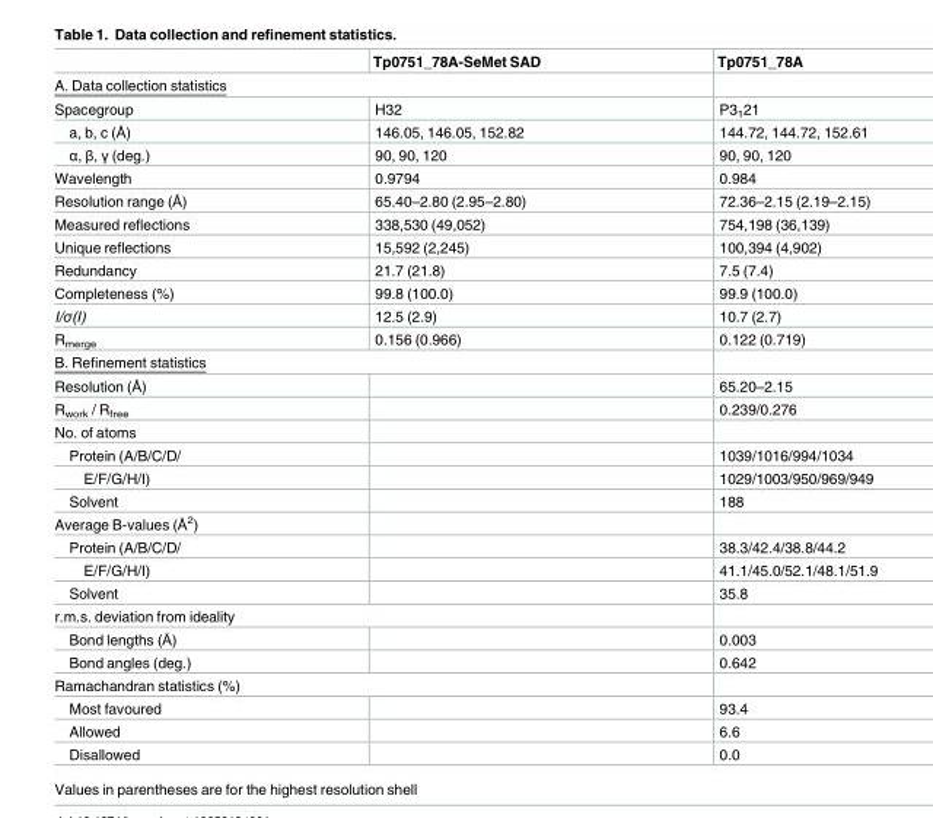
<table><thead><tr><td></td><td>Tp0751_78A-SeMet SAD</td><td>Tp0751_78A</td></tr></thead><tbody><tr><td colspan="3">A. Data collection statistics</td></tr><tr><td>Spacegroup</td><td>H32</td><td>P3<sub>1</sub>21</td></tr><tr><td>a, b, c (Å)</td><td>146.05, 146.05, 152.82</td><td>144.72, 144.72, 152.61</td></tr><tr><td>α, β, γ (deg.)</td><td>90, 90, 120</td><td>90, 90, 120</td></tr><tr><td>Wavelength</td><td>0.9794</td><td>0.984</td></tr><tr><td>Resolution range (Å)</td><td>65.40–2.80 (2.95–2.80)</td><td>72.36–2.15 (2.19–2.15)</td></tr><tr><td>Measured reflections</td><td>338,530 (49,052)</td><td>754,198 (36,139)</td></tr><tr><td>Unique reflections</td><td>15,592 (2,245)</td><td>100,394 (4,902)</td></tr><tr><td>Redundancy</td><td>21.7 (21.8)</td><td>7.5 (7.4)</td></tr><tr><td>Completeness (%)</td><td>99.8 (100.0)</td><td>99.9 (100.0)</td></tr><tr><td>I/σ(I)</td><td>12.5 (2.9)</td><td>10.7 (2.7)</td></tr><tr><td>R<sub>merge</sub></td><td>0.156 (0.966)</td><td>0.122 (0.719)</td></tr><tr><td colspan="3">B. Refinement statistics</td></tr><tr><td>Resolution (Å)</td><td></td><td>65.20–2.15</td></tr><tr><td>R<sub>work</sub> / R<sub>free</sub></td><td></td><td>0.239/0.276</td></tr><tr><td colspan="3">No. of atoms</td></tr><tr><td>Protein (A/B/C/D/</td><td></td><td>1039/1016/994/1034</td></tr><tr><td>E/F/G/H/I)</td><td></td><td>1029/1003/950/969/949</td></tr><tr><td>Solvent</td><td></td><td>188</td></tr><tr><td colspan="3">Average B-values (Å<sup>2</sup>)</td></tr><tr><td>Protein (A/B/C/D/</td><td></td><td>38.3/42.4/38.8/44.2</td></tr><tr><td>E/F/G/H/I)</td><td></td><td>41.1/45.0/52.1/48.1/51.9</td></tr><tr><td>Solvent</td><td></td><td>35.8</td></tr><tr><td colspan="3">r.m.s. deviation from ideality</td></tr><tr><td>Bond lengths (Å)</td><td></td><td>0.003</td></tr><tr><td>Bond angles (deg.)</td><td></td><td>0.642</td></tr><tr><td colspan="3">Ramachandran statistics (%)</td></tr><tr><td>Most favoured</td><td></td><td>93.4</td></tr><tr><td>Allowed</td><td></td><td>6.6</td></tr><tr><td>Disallowed</td><td></td><td>0.0</td></tr></tbody></table>